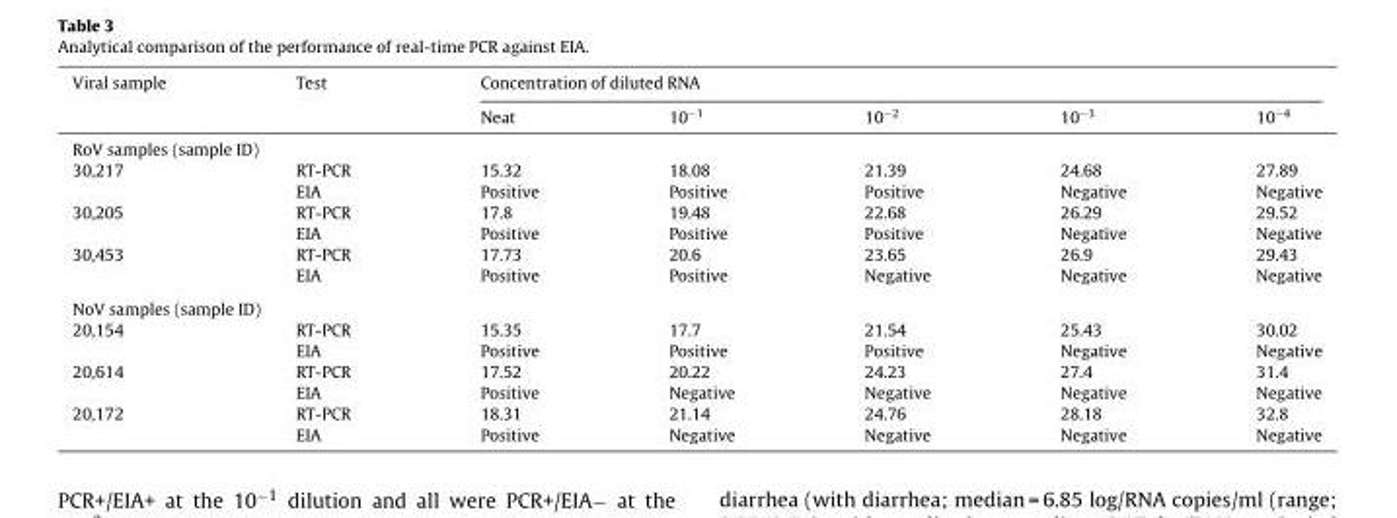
<table><thead><tr><td rowspan="2">Viral sample</td><td rowspan="2">Test</td><td colspan="5">Concentration of diluted RNA</td></tr><tr><td>Neat</td><td>10<sup>−1</sup></td><td>10<sup>−2</sup></td><td>10<sup>−3</sup></td><td>10<sup>−4</sup></td></tr></thead><tbody><tr><td colspan="7">RoV samples (sample ID)</td></tr><tr><td rowspan="2">30,217</td><td>RT-PCR</td><td>15.32</td><td>18.08</td><td>21.39</td><td>24.68</td><td>27.89</td></tr><tr><td>EIA</td><td>Positive</td><td>Positive</td><td>Positive</td><td>Negative</td><td>Negative</td></tr><tr><td rowspan="2">30,205</td><td>RT-PCR</td><td>17.8</td><td>19.48</td><td>22.68</td><td>26.29</td><td>29.52</td></tr><tr><td>EIA</td><td>Positive</td><td>Positive</td><td>Positive</td><td>Negative</td><td>Negative</td></tr><tr><td rowspan="2">30,453</td><td>RT-PCR</td><td>17.73</td><td>20.6</td><td>23.65</td><td>26.9</td><td>29.43</td></tr><tr><td>EIA</td><td>Positive</td><td>Positive</td><td>Negative</td><td>Negative</td><td>Negative</td></tr><tr><td colspan="7">NoV samples (sample ID)</td></tr><tr><td rowspan="2">20,154</td><td>RT-PCR</td><td>15.35</td><td>17.7</td><td>21.54</td><td>25.43</td><td>30.02</td></tr><tr><td>EIA</td><td>Positive</td><td>Positive</td><td>Positive</td><td>Negative</td><td>Negative</td></tr><tr><td rowspan="2">20,614</td><td>RT-PCR</td><td>17.52</td><td>20.22</td><td>24.23</td><td>27.4</td><td>31.4</td></tr><tr><td>EIA</td><td>Positive</td><td>Negative</td><td>Negative</td><td>Negative</td><td>Negative</td></tr><tr><td rowspan="2">20,172</td><td>RT-PCR</td><td>18.31</td><td>21.14</td><td>24.76</td><td>28.18</td><td>32.8</td></tr><tr><td>EIA</td><td>Positive</td><td>Negative</td><td>Negative</td><td>Negative</td><td>Negative</td></tr></tbody></table>